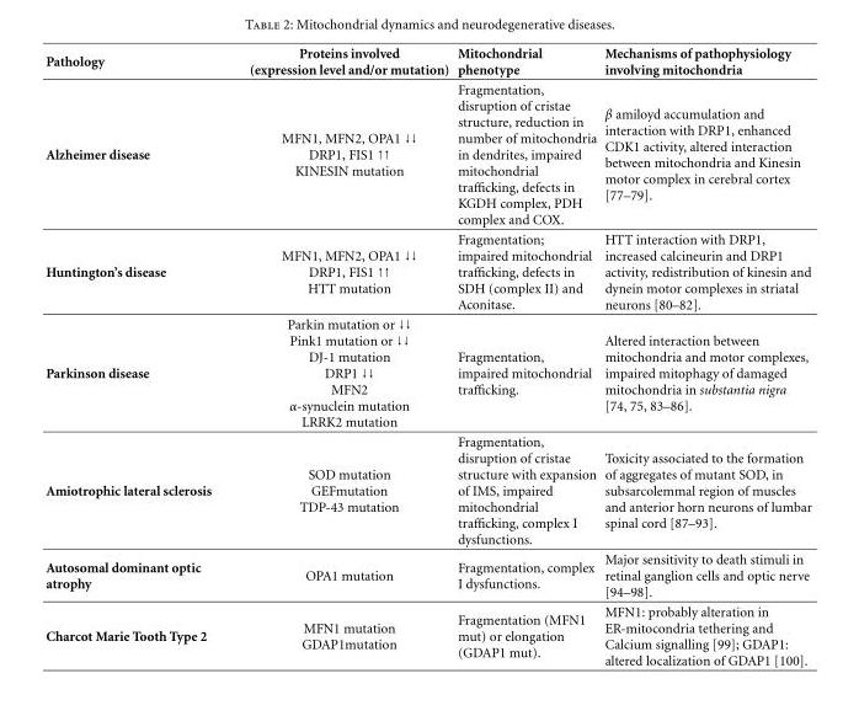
<table><thead><tr><td>Pathology</td><td>Proteins involved (expression level and/or mutation)</td><td>Mitochondrial phenotype</td><td>Mechanisms of pathophysiology involving mitochondria</td></tr></thead><tbody><tr><td>Alzheimer disease</td><td>MFN1, MFN2, OPA1 ↓↓ DRP1, FIS1 ↑↑ KINESIN mutation</td><td>Fragmentation, disruption of cristae structure, reduction in number of mitochondria in dendrites, impaired mitochondrial trafficking, defects in KGDH complex, PDH complex and COX.</td><td>β amiloyd accumulation and interaction with DRP1, enhanced CDK1 activity, altered interaction between mitochondria and Kinesin motor complex in cerebral cortex [77–79].</td></tr><tr><td>Huntington’s disease</td><td>MFN1, MFN2, OPA1 ↓↓ DRP1, FIS1 ↑↑ HTT mutation</td><td>Fragmentation; impaired mitochondrial trafficking, defects in SDH (complex II) and Aconitase.</td><td>HTT interaction with DRP1, increased calcineurin and DRP1 activity, redistribution of kinesin and dynein motor complexes in striatal neurons [80–82].</td></tr><tr><td>Parkinson disease</td><td>Parkin mutation or ↓↓ Pink1 mutation or ↓↓ DJ-1 mutation DRP1 ↓↓ MFN2 α-synuclein mutation LRRK2 mutation</td><td>Fragmentation, impaired mitochondrial trafficking.</td><td>Altered interaction between mitochondria and motor complexes, impaired mitophagy of damaged mitochondria in substantia nigra [74, 75, 83–86].</td></tr><tr><td>Amiotrophic lateral sclerosis</td><td>SOD mutation GEFmutation TDP-43 mutation</td><td>Fragmentation, disruption of cristae structure with expansion of IMS, impaired mitochondrial trafficking, complex I dysfunctions.</td><td>Toxicity associated to the formation of aggregates of mutant SOD, in subsarcolemmal region of muscles and anterior horn neurons of lumbar spinal cord [87–93].</td></tr><tr><td>Autosomal dominant optic atrophy</td><td>OPA1 mutation</td><td>Fragmentation, complex I dysfunctions.</td><td>Major sensitivity to death stimuli in retinal ganglion cells and optic nerve [94–98].</td></tr><tr><td>Charcot Marie Tooth Type 2</td><td>MFN1 mutation GDAP1mutation</td><td>Fragmentation (MFN1 mut) or elongation (GDAP1 mut).</td><td>MFN1: probably alteration in ER-mitocondria tethering and Calcium signalling [99]; GDAP1: altered localization of GDAP1 [100].</td></tr></tbody></table>